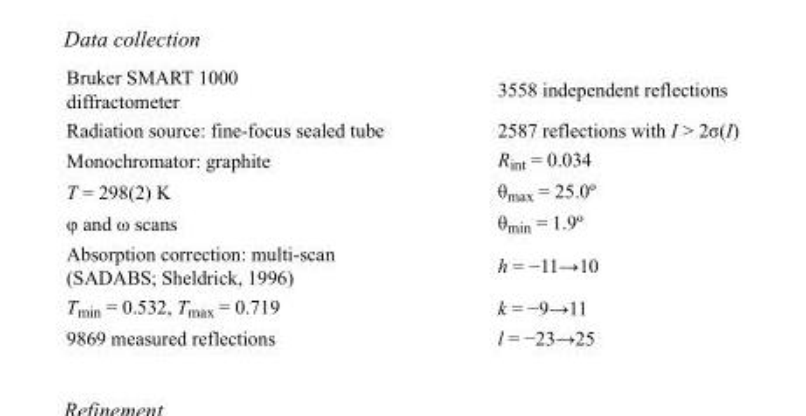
<table><tbody><tr><td>Bruker SMART 1000 diffractometer</td><td>3558 independent reflections</td></tr><tr><td>Radiation source: fine-focus sealed tube</td><td>2587 reflections with I &gt; 2σ(I)</td></tr><tr><td>Monochromator: graphite</td><td>R<sub>int</sub> = 0.034</td></tr><tr><td>T = 298(2) K</td><td>θ<sub>max</sub> = 25.0º</td></tr><tr><td>φ and ω scans</td><td>θ<sub>min</sub> = 1.9º</td></tr><tr><td>Absorption correction: multi-scan (SADABS; Sheldrick, 1996)</td><td>h = −11→10</td></tr><tr><td>T<sub>min</sub> = 0.532, T<sub>max</sub> = 0.719</td><td>k = −9→11</td></tr><tr><td>9869 measured reflections</td><td>l = −23→25</td></tr></tbody></table>